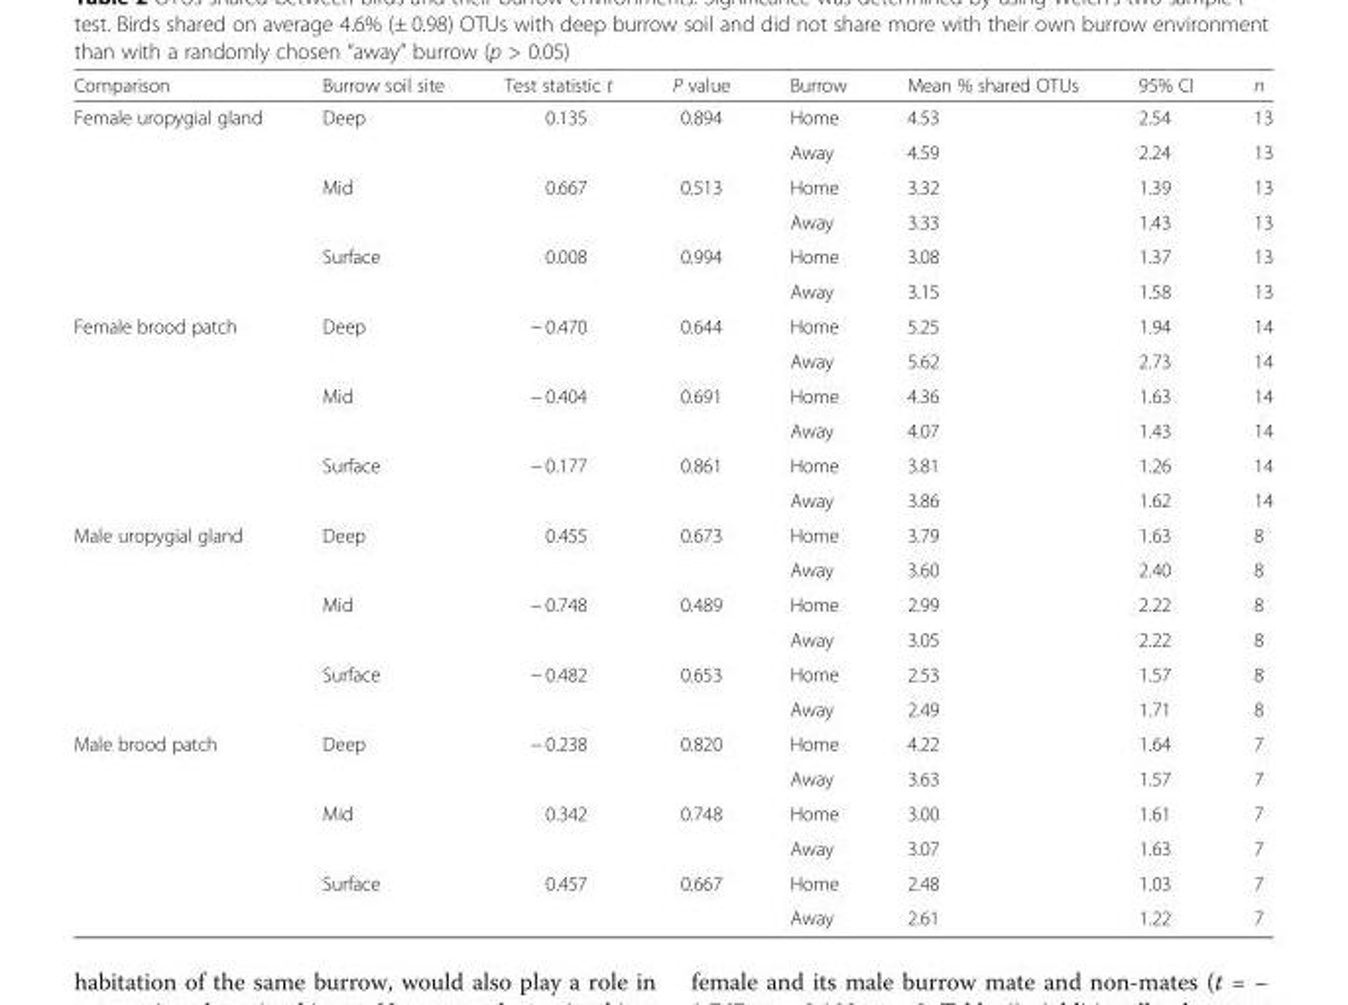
<table><thead><tr><td>Comparison</td><td>Burrow soil site</td><td>Test statistic t</td><td>P value</td><td>Burrow</td><td>Mean % shared OTUs</td><td>95% CI</td><td>n</td></tr></thead><tbody><tr><td rowspan="6">Female uropygial gland</td><td rowspan="2">Deep</td><td rowspan="2">0.135</td><td rowspan="2">0.894</td><td>Home</td><td>4.53</td><td>2.54</td><td>13</td></tr><tr><td>Away</td><td>4.59</td><td>2.24</td><td>13</td></tr><tr><td rowspan="2">Mid</td><td rowspan="2">0.667</td><td rowspan="2">0.513</td><td>Home</td><td>3.32</td><td>1.39</td><td>13</td></tr><tr><td>Away</td><td>3.33</td><td>1.43</td><td>13</td></tr><tr><td rowspan="2">Surface</td><td rowspan="2">0.008</td><td rowspan="2">0.994</td><td>Home</td><td>3.08</td><td>1.37</td><td>13</td></tr><tr><td>Away</td><td>3.15</td><td>1.58</td><td>13</td></tr><tr><td rowspan="6">Female brood patch</td><td rowspan="2">Deep</td><td rowspan="2">− 0.470</td><td rowspan="2">0.644</td><td>Home</td><td>5.25</td><td>1.94</td><td>14</td></tr><tr><td>Away</td><td>5.62</td><td>2.73</td><td>14</td></tr><tr><td rowspan="2">Mid</td><td rowspan="2">− 0.404</td><td rowspan="2">0.691</td><td>Home</td><td>4.36</td><td>1.63</td><td>14</td></tr><tr><td>Away</td><td>4.07</td><td>1.43</td><td>14</td></tr><tr><td rowspan="2">Surface</td><td rowspan="2">− 0.177</td><td rowspan="2">0.861</td><td>Home</td><td>3.81</td><td>1.26</td><td>14</td></tr><tr><td>Away</td><td>3.86</td><td>1.62</td><td>14</td></tr><tr><td rowspan="6">Male uropygial gland</td><td rowspan="2">Deep</td><td rowspan="2">0.455</td><td rowspan="2">0.673</td><td>Home</td><td>3.79</td><td>1.63</td><td>8</td></tr><tr><td>Away</td><td>3.60</td><td>2.40</td><td>8</td></tr><tr><td rowspan="2">Mid</td><td rowspan="2">− 0.748</td><td rowspan="2">0.489</td><td>Home</td><td>2.99</td><td>2.22</td><td>8</td></tr><tr><td>Away</td><td>3.05</td><td>2.22</td><td>8</td></tr><tr><td rowspan="2">Surface</td><td rowspan="2">− 0.482</td><td rowspan="2">0.653</td><td>Home</td><td>2.53</td><td>1.57</td><td>8</td></tr><tr><td>Away</td><td>2.49</td><td>1.71</td><td>8</td></tr><tr><td rowspan="6">Male brood patch</td><td rowspan="2">Deep</td><td rowspan="2">− 0.238</td><td rowspan="2">0.820</td><td>Home</td><td>4.22</td><td>1.64</td><td>7</td></tr><tr><td>Away</td><td>3.63</td><td>1.57</td><td>7</td></tr><tr><td rowspan="2">Mid</td><td rowspan="2">0.342</td><td rowspan="2">0.748</td><td>Home</td><td>3.00</td><td>1.61</td><td>7</td></tr><tr><td>Away</td><td>3.07</td><td>1.63</td><td>7</td></tr><tr><td rowspan="2">Surface</td><td rowspan="2">0.457</td><td rowspan="2">0.667</td><td>Home</td><td>2.48</td><td>1.03</td><td>7</td></tr><tr><td>Away</td><td>2.61</td><td>1.22</td><td>7</td></tr></tbody></table>